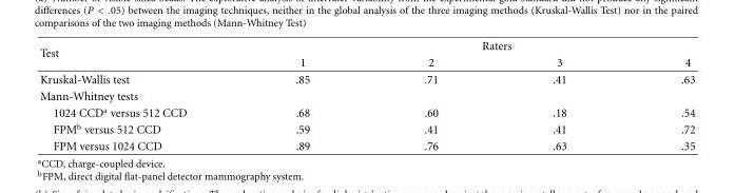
<table><thead><tr><td rowspan="2">Test</td><td colspan="4">Raters</td></tr><tr><td>1</td><td>2</td><td>3</td><td>4</td></tr></thead><tbody><tr><td>Kruskal-Wallis test</td><td>.85</td><td>.71</td><td>.41</td><td>.63</td></tr><tr><td colspan="5">Mann-Whitney tests</td></tr><tr><td>1024 CCD<sup>a</sup> versus 512 CCD</td><td>.68</td><td>.60</td><td>.18</td><td>.54</td></tr><tr><td>FPM<sup>b</sup> versus 512 CCD</td><td>.59</td><td>.41</td><td>.41</td><td>.72</td></tr><tr><td>FPM versus 1024 CCD</td><td>.89</td><td>.76</td><td>.63</td><td>.35</td></tr></tbody></table>